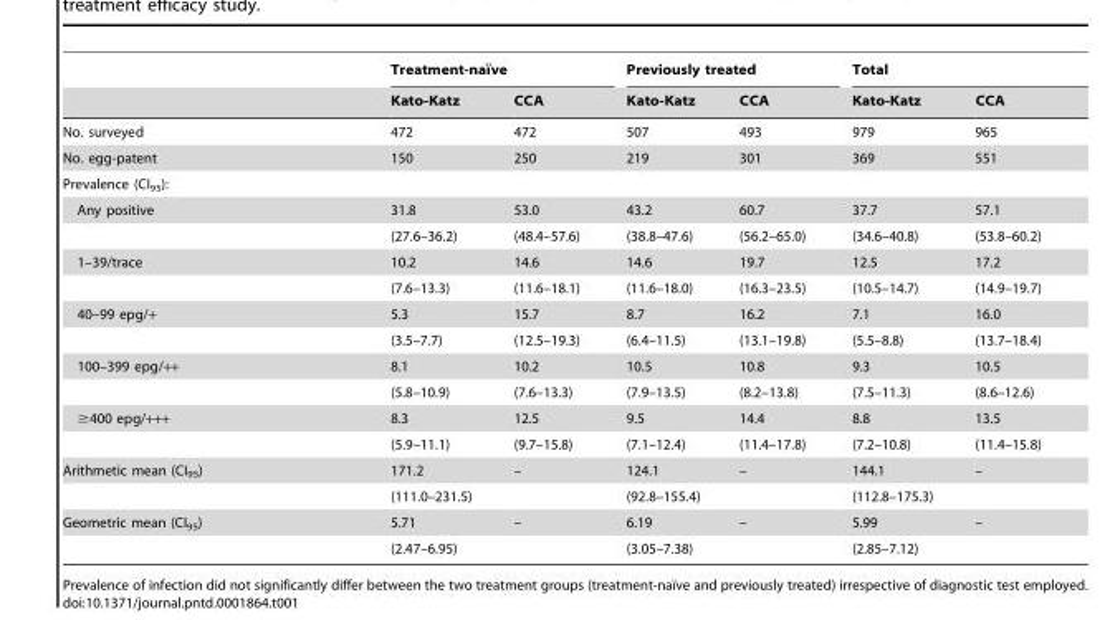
<table><thead><tr><td rowspan="2"></td><td colspan="2">Treatment-naı¨ve</td><td colspan="2">Previously treated</td><td colspan="2">Total</td></tr><tr><td>Kato-Katz</td><td>CCA</td><td>Kato-Katz</td><td>CCA</td><td>Kato-Katz</td><td>CCA</td></tr></thead><tbody><tr><td>No. surveyed</td><td>472</td><td>472</td><td>507</td><td>493</td><td>979</td><td>965</td></tr><tr><td>No. egg-patent</td><td>150</td><td>250</td><td>219</td><td>301</td><td>369</td><td>551</td></tr><tr><td colspan="7">Prevalence (CI<sub>95</sub>):</td></tr><tr><td rowspan="2">Any positive</td><td>31.8</td><td>53.0</td><td>43.2</td><td>60.7</td><td>37.7</td><td>57.1</td></tr><tr><td>(27.6–36.2)</td><td>(48.4–57.6)</td><td>(38.8–47.6)</td><td>(56.2–65.0)</td><td>(34.6–40.8)</td><td>(53.8–60.2)</td></tr><tr><td rowspan="2">1–39/trace</td><td>10.2</td><td>14.6</td><td>14.6</td><td>19.7</td><td>12.5</td><td>17.2</td></tr><tr><td>(7.6–13.3)</td><td>(11.6–18.1)</td><td>(11.6–18.0)</td><td>(16.3–23.5)</td><td>(10.5–14.7)</td><td>(14.9–19.7)</td></tr><tr><td rowspan="2">40–99 epg/+</td><td>5.3</td><td>15.7</td><td>8.7</td><td>16.2</td><td>7.1</td><td>16.0</td></tr><tr><td>(3.5–7.7)</td><td>(12.5–19.3)</td><td>(6.4–11.5)</td><td>(13.1–19.8)</td><td>(5.5–8.8)</td><td>(13.7–18.4)</td></tr><tr><td rowspan="2">100–399 epg/++</td><td>8.1</td><td>10.2</td><td>10.5</td><td>10.8</td><td>9.3</td><td>10.5</td></tr><tr><td>(5.8–10.9)</td><td>(7.6–13.3)</td><td>(7.9–13.5)</td><td>(8.2–13.8)</td><td>(7.5–11.3)</td><td>(8.6–12.6)</td></tr><tr><td rowspan="2">≥400 epg/+++</td><td>8.3</td><td>12.5</td><td>9.5</td><td>14.4</td><td>8.8</td><td>13.5</td></tr><tr><td>(5.9–11.1)</td><td>(9.7–15.8)</td><td>(7.1–12.4)</td><td>(11.4–17.8)</td><td>(7.2–10.8)</td><td>(11.4–15.8)</td></tr><tr><td rowspan="2">Arithmetic mean (CI<sub>95</sub>)</td><td>171.2</td><td>–</td><td>124.1</td><td>–</td><td>144.1</td><td>–</td></tr><tr><td>(111.0–231.5)</td><td></td><td>(92.8–155.4)</td><td></td><td>(112.8–175.3)</td><td></td></tr><tr><td rowspan="2">Geometric mean (CI<sub>95</sub>)</td><td>5.71</td><td>–</td><td>6.19</td><td>–</td><td>5.99</td><td>–</td></tr><tr><td>(2.47–6.95)</td><td></td><td>(3.05–7.38)</td><td></td><td>(2.85–7.12)</td><td></td></tr></tbody></table>